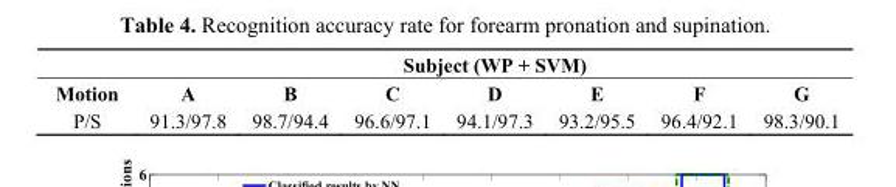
<table><thead><tr><td rowspan="2">Motion</td><td colspan="7">Subject (WP + SVM)</td></tr><tr><td>A</td><td>B</td><td>C</td><td>D</td><td>E</td><td>F</td><td>G</td></tr></thead><tbody><tr><td>P/S</td><td>91.3/97.8</td><td>98.7/94.4</td><td>96.6/97.1</td><td>94.1/97.3</td><td>93.2/95.5</td><td>96.4/92.1</td><td>98.3/90.1</td></tr></tbody></table>